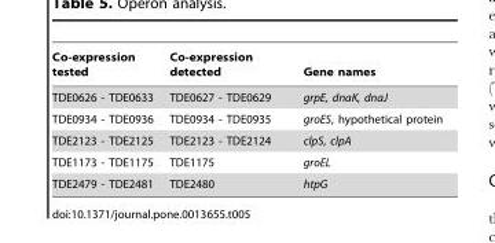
<table><thead><tr><td>Co-expression tested</td><td>Co-expression detected</td><td>Gene names</td></tr></thead><tbody><tr><td>TDE0626 - TDE0633</td><td>TDE0627 - TDE0629</td><td>grpE, dnaK, dnaJ</td></tr><tr><td>TDE0934 - TDE0936</td><td>TDE0934 - TDE0935</td><td>groES, hypothetical protein</td></tr><tr><td>TDE2123 - TDE2125</td><td>TDE2123 - TDE2124</td><td>clpS, clpA</td></tr><tr><td>TDE1173 - TDE1175</td><td>TDE1175</td><td>groEL</td></tr><tr><td>TDE2479 - TDE2481</td><td>TDE2480</td><td>htpG</td></tr></tbody></table>